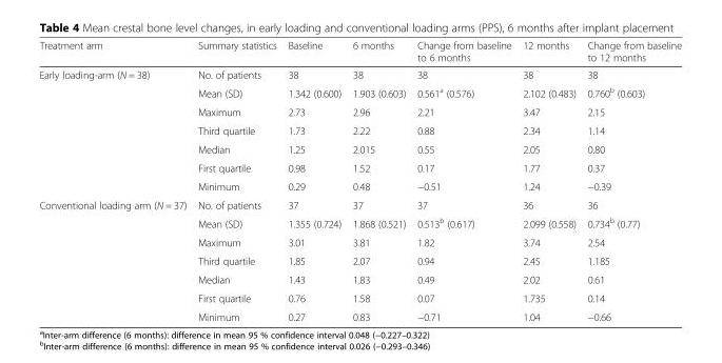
<table><thead><tr><td>Treatment arm</td><td>Summary statistics</td><td>Baseline</td><td>6 months</td><td>Change from baseline to 6 months</td><td>12 months</td><td>Change from baseline to 12 months</td></tr></thead><tbody><tr><td rowspan="7">Early loading-arm (N = 38)</td><td>No. of patients</td><td>38</td><td>38</td><td>38</td><td>38</td><td>38</td></tr><tr><td>Mean (SD)</td><td>1.342 (0.600)</td><td>1.903 (0.603)</td><td>0.561<sup>a</sup> (0.576)</td><td>2.102 (0.483)</td><td>0.760<sup>b</sup> (0.603)</td></tr><tr><td>Maximum</td><td>2.73</td><td>2.96</td><td>2.21</td><td>3.47</td><td>2.15</td></tr><tr><td>Third quartile</td><td>1.73</td><td>2.22</td><td>0.88</td><td>2.34</td><td>1.14</td></tr><tr><td>Median</td><td>1.25</td><td>2.015</td><td>0.55</td><td>2.05</td><td>0.80</td></tr><tr><td>First quartile</td><td>0.98</td><td>1.52</td><td>0.17</td><td>1.77</td><td>0.37</td></tr><tr><td>Minimum</td><td>0.29</td><td>0.48</td><td>−0.51</td><td>1.24</td><td>−0.39</td></tr><tr><td rowspan="7">Conventional loading arm (N = 37)</td><td>No. of patients</td><td>37</td><td>37</td><td>37</td><td>36</td><td>36</td></tr><tr><td>Mean (SD)</td><td>1.355 (0.724)</td><td>1.868 (0.521)</td><td>0.513<sup>b</sup> (0.617)</td><td>2.099 (0.558)</td><td>0.734<sup>b</sup> (0.77)</td></tr><tr><td>Maximum</td><td>3.01</td><td>3.81</td><td>1.82</td><td>3.74</td><td>2.54</td></tr><tr><td>Third quartile</td><td>1.85</td><td>2.07</td><td>0.94</td><td>2.45</td><td>1.185</td></tr><tr><td>Median</td><td>1.43</td><td>1.83</td><td>0.49</td><td>2.02</td><td>0.61</td></tr><tr><td>First quartile</td><td>0.76</td><td>1.58</td><td>0.07</td><td>1.735</td><td>0.14</td></tr><tr><td>Minimum</td><td>0.27</td><td>0.83</td><td>−0.71</td><td>1.04</td><td>−0.66</td></tr></tbody></table>